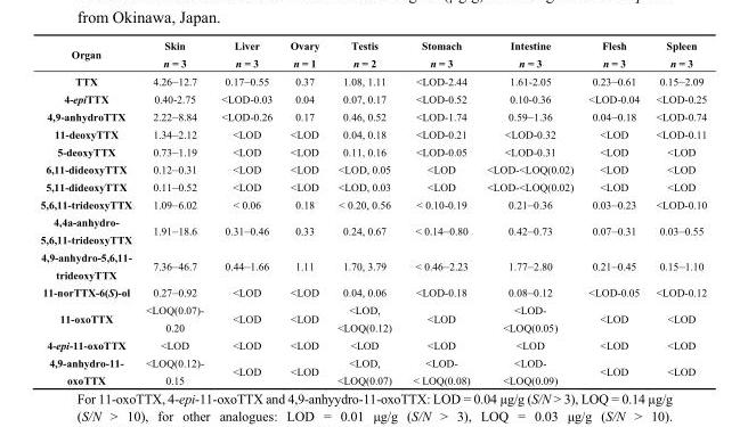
<table><thead><tr><td rowspan="2">Organ</td><td rowspan="2">Skin n = 3</td><td rowspan="2">Liver n = 3</td><td rowspan="2">Ovary n = 1</td><td rowspan="2">Testis n = 2</td><td rowspan="2">Stomach n = 3</td><td rowspan="2">Intestine n = 3</td><td rowspan="2">Flesh n = 3</td><td rowspan="2">Spleen n = 3</td></tr><tr></tr></thead><tbody><tr><td>TTX</td><td>4.26–12.7</td><td>0.17–0.55</td><td>0.37</td><td>1.08, 1.11</td><td>&lt;LOD-2.44</td><td>1.61-2.05</td><td>0.23–0.61</td><td>0.15–2.09</td></tr><tr><td>4-epiTTX</td><td>0.40-2.75</td><td>&lt;LOD-0.03</td><td>0.04</td><td>0.07, 0.17</td><td>&lt;LOD-0.52</td><td>0.10-0.36</td><td>&lt;LOD-0.04</td><td>&lt;LOD-0.25</td></tr><tr><td>4,9-anhydroTTX</td><td>2.22–8.84</td><td>&lt;LOD-0.26</td><td>0.17</td><td>0.46, 0.52</td><td>&lt;LOD-1.74</td><td>0.59–1.36</td><td>0.04–0.18</td><td>&lt;LOD-0.74</td></tr><tr><td>11-deoxyTTX</td><td>1.34–2.12</td><td>&lt;LOD</td><td>&lt;LOD</td><td>0.04, 0.18</td><td>&lt;LOD-0.21</td><td>&lt;LOD-0.32</td><td>&lt;LOD</td><td>&lt;LOD-0.11</td></tr><tr><td>5-deoxyTTX</td><td>0.73–1.19</td><td>&lt;LOD</td><td>&lt;LOD</td><td>0.11, 0.16</td><td>&lt;LOD-0.05</td><td>&lt;LOD-0.31</td><td>&lt;LOD</td><td>&lt;LOD</td></tr><tr><td>6,11-dideoxyTTX</td><td>0.12–0.31</td><td>&lt;LOD</td><td>&lt;LOD</td><td>&lt;LOD, 0.05</td><td>&lt;LOD</td><td>&lt;LOD-&lt;LOQ(0.02)</td><td>&lt;LOD</td><td>&lt;LOD</td></tr><tr><td>5,11-dideoxyTTX</td><td>0.11–0.52</td><td>&lt;LOD</td><td>&lt;LOD</td><td>&lt;LOD, 0.03</td><td>&lt;LOD</td><td>&lt;LOD-&lt;LOQ(0.02)</td><td>&lt;LOD</td><td>&lt;LOD</td></tr><tr><td>5,6,11-trideoxyTTX</td><td>1.09–6.02</td><td>&lt; 0.06</td><td>0.18</td><td>&lt; 0.20, 0.56</td><td>&lt; 0.10-0.19</td><td>0.21–0.36</td><td>0.03–0.23</td><td>&lt;LOD-0.10</td></tr><tr><td>4,4a-anhydro- 5,6,11-trideoxyTTX</td><td>1.91–18.6</td><td>0.31–0.46</td><td>0.33</td><td>0.24, 0.67</td><td>&lt; 0.14–0.80</td><td>0.42–0.73</td><td>0.07–0.31</td><td>0.03–0.55</td></tr><tr><td>4,9-anhydro-5,6,11- trideoxyTTX</td><td>7.36–46.7</td><td>0.44–1.66</td><td>1.11</td><td>1.70, 3.79</td><td>&lt; 0.46–2.23</td><td>1.77–2.80</td><td>0.21–0.45</td><td>0.15–1.10</td></tr><tr><td>11-norTTX-6(S)-ol</td><td>0.27–0.92</td><td>&lt;LOD</td><td>&lt;LOD</td><td>0.04, 0.06</td><td>&lt;LOD-0.18</td><td>0.08–0.12</td><td>&lt;LOD-0.05</td><td>&lt;LOD-0.12</td></tr><tr><td>11-oxoTTX</td><td>&lt;LOQ(0.07)- 0.20</td><td>&lt;LOD</td><td>&lt;LOD</td><td>&lt;LOD, &lt;LOQ(0.12)</td><td>&lt;LOD</td><td>&lt;LOD- &lt;LOQ(0.05)</td><td>&lt;LOD</td><td>&lt;LOD</td></tr><tr><td>4-epi-11-oxoTTX</td><td>&lt;LOD</td><td>&lt;LOD</td><td>&lt;LOD</td><td>&lt;LOD</td><td>&lt;LOD</td><td>&lt;LOD</td><td>&lt;LOD</td><td>&lt;LOD</td></tr><tr><td>4,9-anhydro-11- oxoTTX</td><td>&lt;LOQ(0.12)- 0.15</td><td>&lt;LOD</td><td>&lt;LOD</td><td>&lt;LOD, &lt;LOQ(0.07)</td><td>&lt;LOD- &lt; LOQ(0.08)</td><td>&lt;LOD- &lt;LOQ(0.09)</td><td>&lt;LOD</td><td>&lt;LOD</td></tr></tbody></table>